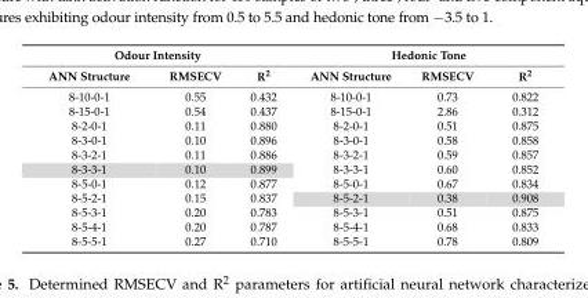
<table><thead><tr><td colspan="3">Odour Intensity</td><td colspan="3">Hedonic Tone</td></tr><tr><td>ANN Structure</td><td>RMSECV</td><td>R<sup>2</sup></td><td>ANN Structure</td><td>RMSECV</td><td>R<sup>2</sup></td></tr></thead><tbody><tr><td>8-10-0-1</td><td>0.55</td><td>0.432</td><td>8-10-0-1</td><td>0.73</td><td>0.822</td></tr><tr><td>8-15-0-1</td><td>0.54</td><td>0.437</td><td>8-15-0-1</td><td>2.86</td><td>0.312</td></tr><tr><td>8-2-0-1</td><td>0.11</td><td>0.880</td><td>8-2-0-1</td><td>0.51</td><td>0.875</td></tr><tr><td>8-3-0-1</td><td>0.10</td><td>0.896</td><td>8-3-0-1</td><td>0.58</td><td>0.858</td></tr><tr><td>8-3-2-1</td><td>0.11</td><td>0.886</td><td>8-3-2-1</td><td>0.59</td><td>0.857</td></tr><tr><td>8-3-3-1</td><td>0.10</td><td>0.899</td><td>8-3-3-1</td><td>0.60</td><td>0.852</td></tr><tr><td>8-5-0-1</td><td>0.12</td><td>0.877</td><td>8-5-0-1</td><td>0.67</td><td>0.834</td></tr><tr><td>8-5-2-1</td><td>0.15</td><td>0.837</td><td>8-5-2-1</td><td>0.38</td><td>0.908</td></tr><tr><td>8-5-3-1</td><td>0.20</td><td>0.783</td><td>8-5-3-1</td><td>0.51</td><td>0.875</td></tr><tr><td>8-5-4-1</td><td>0.20</td><td>0.787</td><td>8-5-4-1</td><td>0.68</td><td>0.833</td></tr><tr><td>8-5-5-1</td><td>0.27</td><td>0.710</td><td>8-5-5-1</td><td>0.78</td><td>0.809</td></tr></tbody></table>